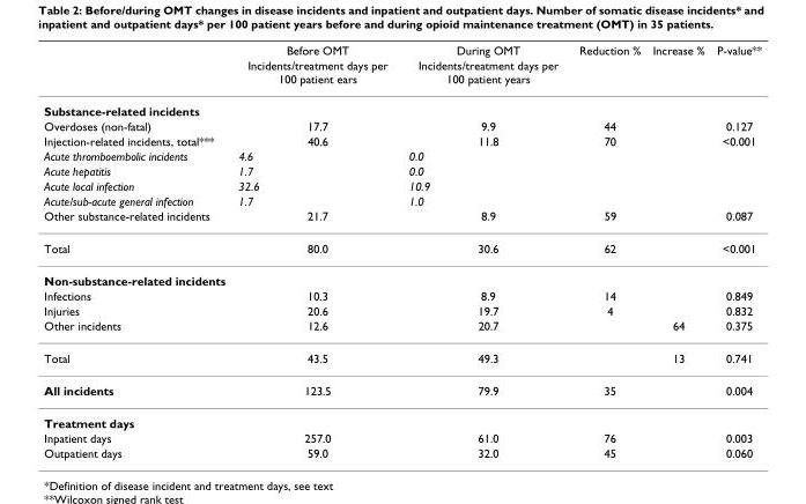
<table><thead><tr><td rowspan="2"></td><td rowspan="2">Before OMT Incidents/treatment days per 100 patient ears</td><td rowspan="2">During OMT Incidents/treatment days per 100 patient years</td><td rowspan="2">Reduction %</td><td rowspan="2">Increase %</td><td rowspan="2">P-value**</td></tr><tr></tr></thead><tbody><tr><td colspan="6">Substance-related incidents</td></tr><tr><td>Overdoses (non-fatal)</td><td>17.7</td><td>9.9</td><td>44</td><td></td><td>0.127</td></tr><tr><td>Injection-related incidents, total***</td><td>40.6</td><td>11.8</td><td>70</td><td></td><td>&lt;0.001</td></tr><tr><td>Acute thromboembolic incidents</td><td>4.6</td><td>0.0</td><td></td><td></td><td></td></tr><tr><td>Acute hepatitis</td><td>1.7</td><td>0.0</td><td></td><td></td><td></td></tr><tr><td>Acute local infection</td><td>32.6</td><td>10.9</td><td></td><td></td><td></td></tr><tr><td>Acute/sub-acute general infection</td><td>1.7</td><td>1.0</td><td></td><td></td><td></td></tr><tr><td>Other substance-related incidents</td><td>21.7</td><td>8.9</td><td>59</td><td></td><td>0.087</td></tr><tr><td>Total</td><td>80.0</td><td>30.6</td><td>62</td><td></td><td>&lt;0.001</td></tr><tr><td colspan="6">Non-substance-related incidents</td></tr><tr><td>Infections</td><td>10.3</td><td>8.9</td><td>14</td><td></td><td>0.849</td></tr><tr><td>Injuries</td><td>20.6</td><td>19.7</td><td>4</td><td></td><td>0.832</td></tr><tr><td>Other incidents</td><td>12.6</td><td>20.7</td><td></td><td>64</td><td>0.375</td></tr><tr><td>Total</td><td>43.5</td><td>49.3</td><td></td><td>13</td><td>0.741</td></tr><tr><td>All incidents</td><td>123.5</td><td>79.9</td><td>35</td><td></td><td>0.004</td></tr><tr><td colspan="6">Treatment days</td></tr><tr><td>Inpatient days</td><td>257.0</td><td>61.0</td><td>76</td><td></td><td>0.003</td></tr><tr><td>Outpatient days</td><td>59.0</td><td>32.0</td><td>45</td><td></td><td>0.060</td></tr></tbody></table>